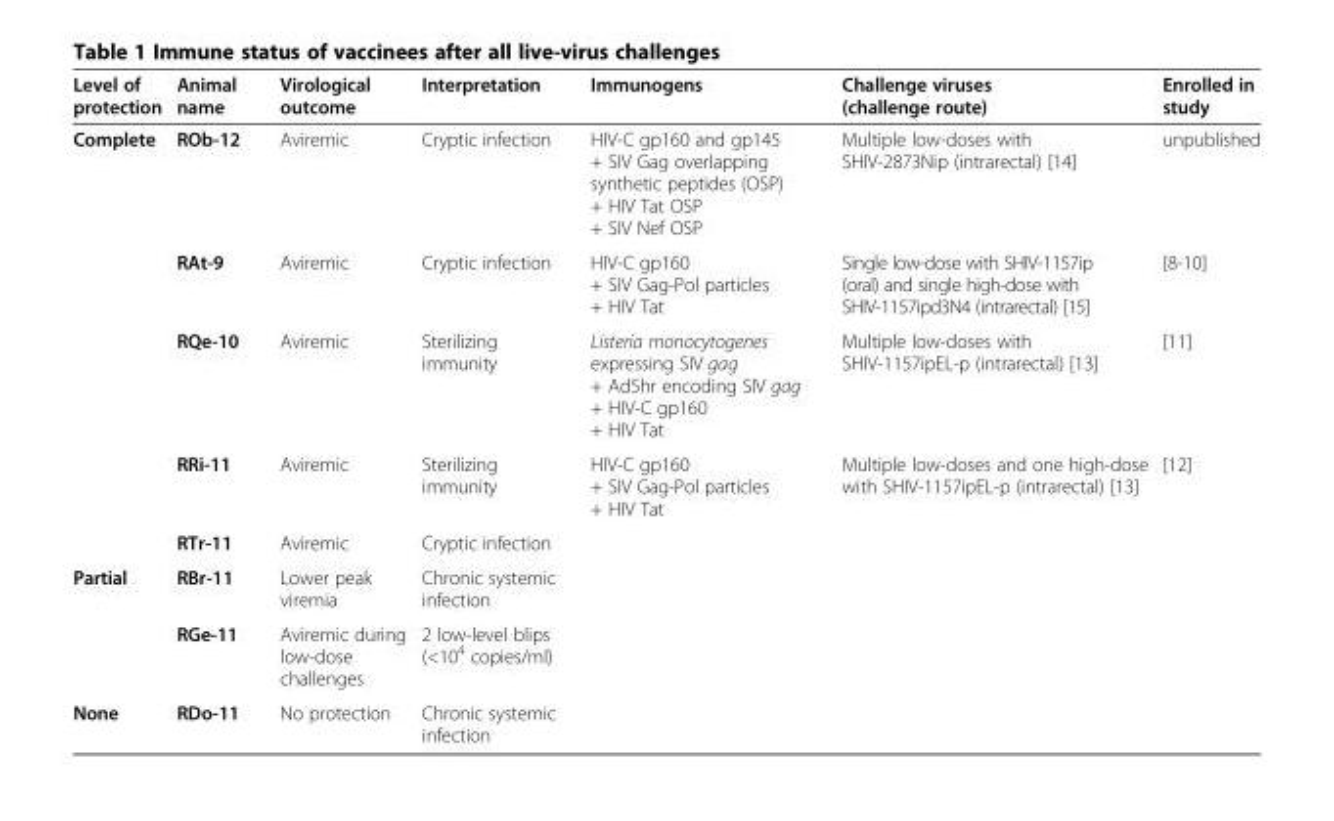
<table><thead><tr><td>Level of protection</td><td>Animal name</td><td>Virological outcome</td><td>Interpretation</td><td>Immunogens</td><td>Challenge viruses (challenge route)</td><td>Enrolled in study</td></tr></thead><tbody><tr><td rowspan="5">Complete</td><td>ROb-12</td><td>Aviremic</td><td>Cryptic infection</td><td>HIV-C gp160 and gp145 + SIV Gag overlapping synthetic peptides (OSP) + HIV Tat OSP + SIV Nef OSP</td><td>Multiple low-doses with SHIV-2873Nip (intrarectal) [14]</td><td>unpublished</td></tr><tr><td>RAt-9</td><td>Aviremic</td><td>Cryptic infection</td><td>HIV-C gp160 + SIV Gag-Pol particles + HIV Tat</td><td>Single low-dose with SHIV-1157ip (oral) and single high-dose with SHIV-1157ipd3N4 (intrarectal) [15]</td><td>[8-10]</td></tr><tr><td>RQe-10</td><td>Aviremic</td><td>Sterilizing immunity</td><td>Listeria monocytogenes expressing SIV gag + Ad5hr encoding SIV gag + HIV-C gp160 + HIV Tat</td><td>Multiple low-doses with SHIV-1157ipEL-p (intrarectal) [13]</td><td>[11]</td></tr><tr><td>RRi-11</td><td>Aviremic</td><td>Sterilizing immunity</td><td rowspan="5">HIV-C gp160 + SIV Gag-Pol particles + HIV Tat</td><td rowspan="5">Multiple low-doses and one high-dose with SHIV-1157ipEL-p (intrarectal) [13]</td><td rowspan="5">[12]</td></tr><tr><td>RTr-11</td><td>Aviremic</td><td>Cryptic infection</td></tr><tr><td rowspan="2">Partial</td><td>RBr-11</td><td>Lower peak viremia</td><td>Chronic systemic infection</td></tr><tr><td>RGe-11</td><td>Aviremic during low-dose challenges</td><td>2 low-level blips (&lt;10<sup>4</sup> copies/ml)</td></tr><tr><td>None</td><td>RDo-11</td><td>No protection</td><td>Chronic systemic infection</td></tr></tbody></table>